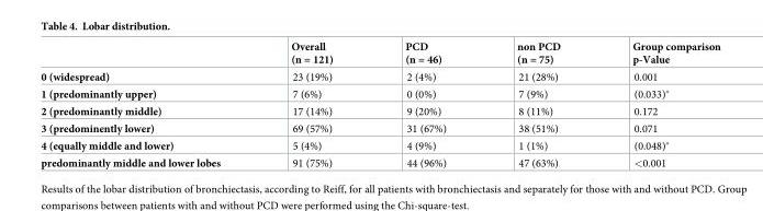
<table><thead><tr><td></td><td>Overall (n = 121)</td><td>PCD (n = 46)</td><td>non PCD (n = 75)</td><td>Group comparison p-Value</td></tr></thead><tbody><tr><td>0 (widespread)</td><td>23 (19%)</td><td>2 (4%)</td><td>21 (28%)</td><td>0.001</td></tr><tr><td>1 (predominantly upper)</td><td>7 (6%)</td><td>0 (0%)</td><td>7 (9%)</td><td>(0.033)*</td></tr><tr><td>2 (predominantly middle)</td><td>17 (14%)</td><td>9 (20%)</td><td>8 (11%)</td><td>0.172</td></tr><tr><td>3 (predominently lower)</td><td>69 (57%)</td><td>31 (67%)</td><td>38 (51%)</td><td>0.071</td></tr><tr><td>4 (equally middle and lower)</td><td>5 (4%)</td><td>4 (9%)</td><td>1 (1%)</td><td>(0.048)*</td></tr><tr><td>predominantly middle and lower lobes</td><td>91 (75%)</td><td>44 (96%)</td><td>47 (63%)</td><td>&lt;0.001</td></tr></tbody></table>